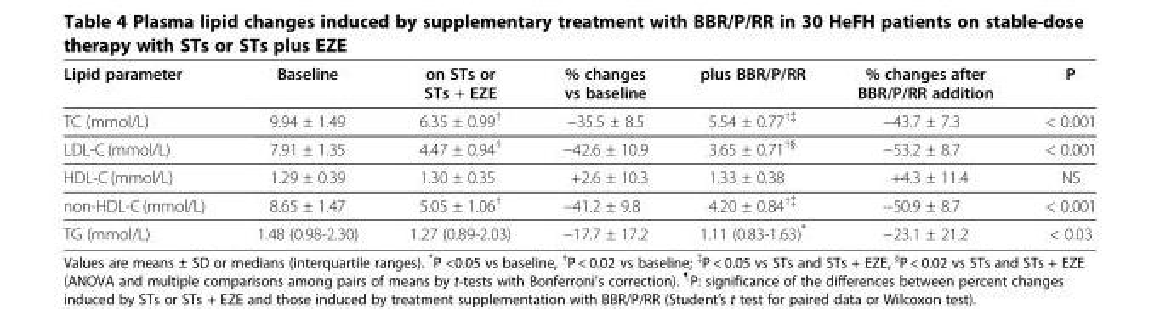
<table><thead><tr><td>Lipid parameter</td><td>Baseline</td><td>on STs or STs + EZE</td><td>% changes vs baseline</td><td>plus BBR/P/RR</td><td>% changes after BBR/P/RR addition</td><td>P</td></tr></thead><tbody><tr><td>TC (mmol/L)</td><td>9.94 ± 1.49</td><td>6.35 ± 0.99<sup>†</sup></td><td>−35.5 ± 8.5</td><td>5.54 ± 0.77<sup>†‡</sup></td><td>−43.7 ± 7.3</td><td>&lt; 0.001</td></tr><tr><td>LDL-C (mmol/L)</td><td>7.91 ± 1.35</td><td>4.47 ± 0.94<sup>†</sup></td><td>−42.6 ± 10.9</td><td>3.65 ± 0.71<sup>†§</sup></td><td>−53.2 ± 8.7</td><td>&lt; 0.001</td></tr><tr><td>HDL-C (mmol/L)</td><td>1.29 ± 0.39</td><td>1.30 ± 0.35</td><td>+2.6 ± 10.3</td><td>1.33 ± 0.38</td><td>+4.3 ± 11.4</td><td>NS</td></tr><tr><td>non-HDL-C (mmol/L)</td><td>8.65 ± 1.47</td><td>5.05 ± 1.06<sup>†</sup></td><td>−41.2 ± 9.8</td><td>4.20 ± 0.84<sup>†‡</sup></td><td>−50.9 ± 8.7</td><td>&lt; 0.001</td></tr><tr><td>TG (mmol/L)</td><td>1.48 (0.98-2.30)</td><td>1.27 (0.89-2.03)</td><td>−17.7 ± 17.2</td><td>1.11 (0.83-1.63)*</td><td>−23.1 ± 21.2</td><td>&lt; 0.03</td></tr></tbody></table>